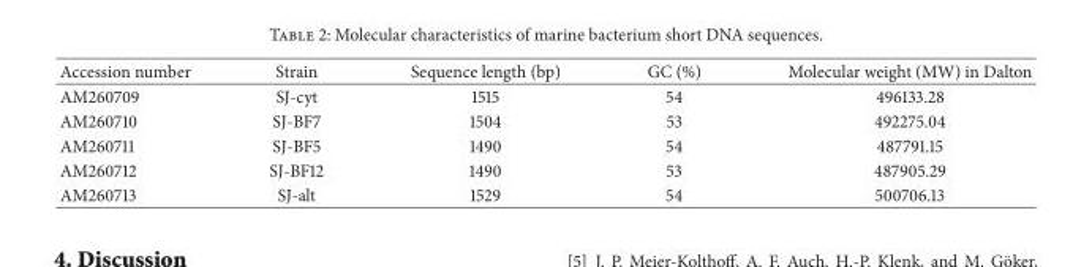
<table><thead><tr><td>Accession number</td><td>Strain</td><td>Sequence length (bp)</td><td>GC (%)</td><td>Molecular weight (MW) in Dalton</td></tr></thead><tbody><tr><td>AM260709</td><td>SJ-cyt</td><td>1515</td><td>54</td><td>496133.28</td></tr><tr><td>AM260710</td><td>SJ-BF7</td><td>1504</td><td>53</td><td>492275.04</td></tr><tr><td>AM260711</td><td>SJ-BF5</td><td>1490</td><td>54</td><td>487791.15</td></tr><tr><td>AM260712</td><td>SJ-BF12</td><td>1490</td><td>53</td><td>487905.29</td></tr><tr><td>AM260713</td><td>SJ-alt</td><td>1529</td><td>54</td><td>500706.13</td></tr></tbody></table>